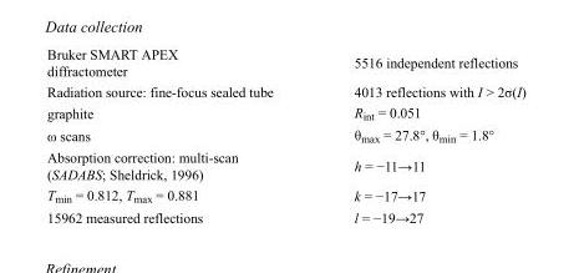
<table><tbody><tr><td>Bruker SMART APEX diffractometer</td><td>5516 independent reflections</td></tr><tr><td>Radiation source: fine-focus sealed tube</td><td>4013 reflections with I &gt; 2σ(I)</td></tr><tr><td>graphite</td><td>R<sub>int</sub> = 0.051</td></tr><tr><td>ω scans</td><td>θ<sub>max</sub> = 27.8°, θ<sub>min</sub> = 1.8°</td></tr><tr><td>Absorption correction: multi-scan (SADABS; Sheldrick, 1996)</td><td>h = −11→11</td></tr><tr><td>T<sub>min</sub> = 0.812, T<sub>max</sub> = 0.881</td><td>k = −17→17</td></tr><tr><td>15962 measured reflections</td><td>l = −19→27</td></tr></tbody></table>